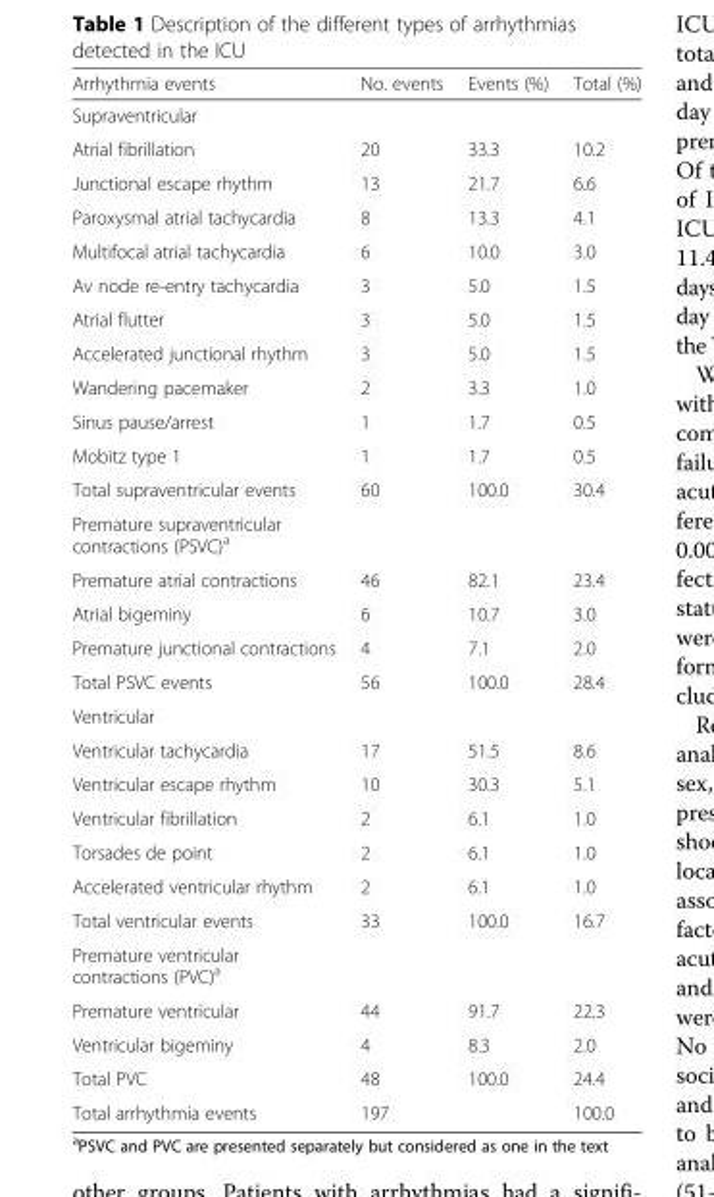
<table><thead><tr><td>Arrhythmia events</td><td>No. events</td><td>Events (%)</td><td>Total (%)</td></tr></thead><tbody><tr><td colspan="4">Supraventricular</td></tr><tr><td>Atrial fibrillation</td><td>20</td><td>33.3</td><td>10.2</td></tr><tr><td>Junctional escape rhythm</td><td>13</td><td>21.7</td><td>6.6</td></tr><tr><td>Paroxysmal atrial tachycardia</td><td>8</td><td>13.3</td><td>4.1</td></tr><tr><td>Multifocal atrial tachycardia</td><td>6</td><td>10.0</td><td>3.0</td></tr><tr><td>Av node re-entry tachycardia</td><td>3</td><td>5.0</td><td>1.5</td></tr><tr><td>Atrial flutter</td><td>3</td><td>5.0</td><td>1.5</td></tr><tr><td>Accelerated junctional rhythm</td><td>3</td><td>5.0</td><td>1.5</td></tr><tr><td>Wandering pacemaker</td><td>2</td><td>3.3</td><td>1.0</td></tr><tr><td>Sinus pause/arrest</td><td>1</td><td>1.7</td><td>0.5</td></tr><tr><td>Mobitz type 1</td><td>1</td><td>1.7</td><td>0.5</td></tr><tr><td>Total supraventricular events</td><td>60</td><td>100.0</td><td>30.4</td></tr><tr><td colspan="4">Premature supraventricular contractions (PSVC)<sup>a</sup></td></tr><tr><td>Premature atrial contractions</td><td>46</td><td>82.1</td><td>23.4</td></tr><tr><td>Atrial bigeminy</td><td>6</td><td>10.7</td><td>3.0</td></tr><tr><td>Premature junctional contractions</td><td>4</td><td>7.1</td><td>2.0</td></tr><tr><td>Total PSVC events</td><td>56</td><td>100.0</td><td>28.4</td></tr><tr><td colspan="4">Ventricular</td></tr><tr><td>Ventricular tachycardia</td><td>17</td><td>51.5</td><td>8.6</td></tr><tr><td>Ventricular escape rhythm</td><td>10</td><td>30.3</td><td>5.1</td></tr><tr><td>Ventricular fibrillation</td><td>2</td><td>6.1</td><td>1.0</td></tr><tr><td>Torsades de point</td><td>2</td><td>6.1</td><td>1.0</td></tr><tr><td>Accelerated ventricular rhythm</td><td>2</td><td>6.1</td><td>1.0</td></tr><tr><td>Total ventricular events</td><td>33</td><td>100.0</td><td>16.7</td></tr><tr><td colspan="4">Premature ventricular contractions (PVC)<sup>a</sup></td></tr><tr><td>Premature ventricular</td><td>44</td><td>91.7</td><td>22.3</td></tr><tr><td>Ventricular bigeminy</td><td>4</td><td>8.3</td><td>2.0</td></tr><tr><td>Total PVC</td><td>48</td><td>100.0</td><td>24.4</td></tr><tr><td>Total arrhythmia events</td><td>197</td><td></td><td>100.0</td></tr></tbody></table>